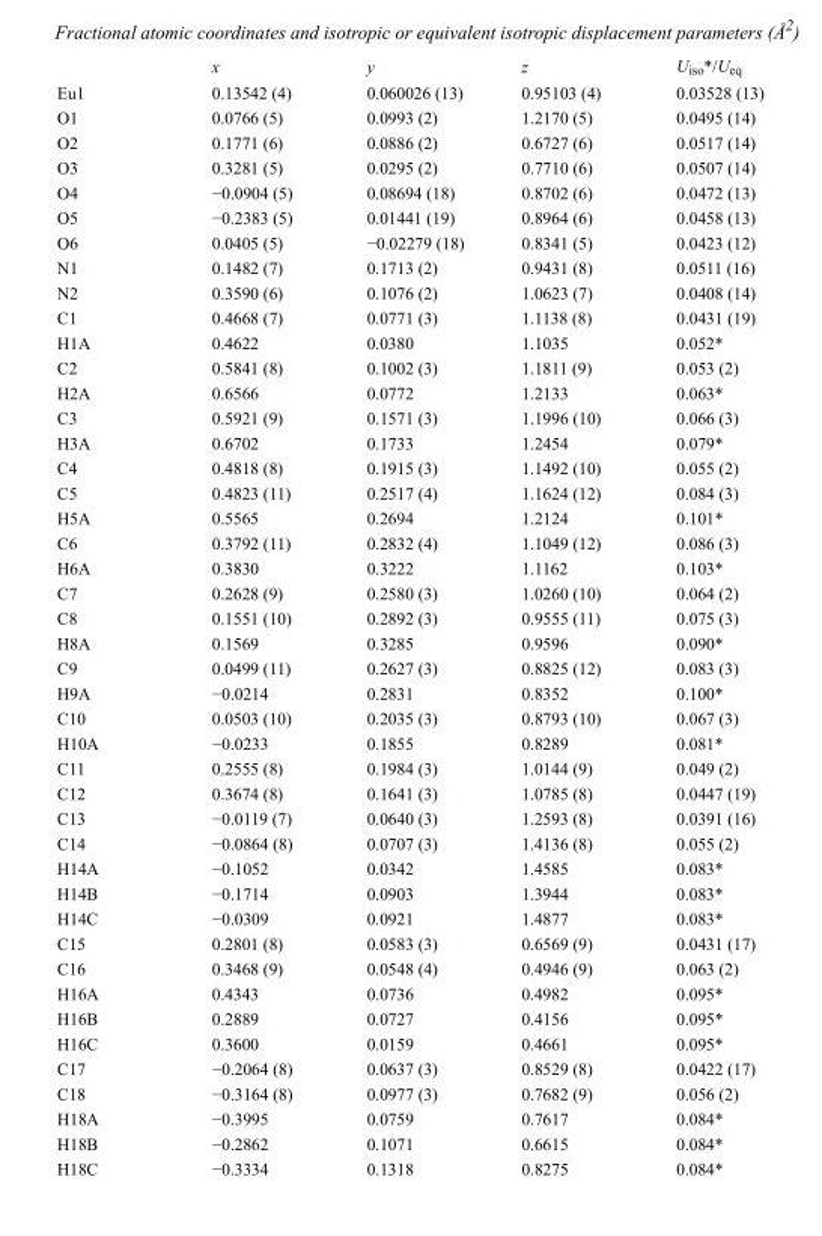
<table><thead><tr><td></td><td>x</td><td>y</td><td>z</td><td>U<sub>iso</sub>*/U<sub>eq</sub></td></tr></thead><tbody><tr><td>Eu1</td><td>0.13542 (4)</td><td>0.060026 (13)</td><td>0.95103 (4)</td><td>0.03528 (13)</td></tr><tr><td>O1</td><td>0.0766 (5)</td><td>0.0993 (2)</td><td>1.2170 (5)</td><td>0.0495 (14)</td></tr><tr><td>O2</td><td>0.1771 (6)</td><td>0.0886 (2)</td><td>0.6727 (6)</td><td>0.0517 (14)</td></tr><tr><td>O3</td><td>0.3281 (5)</td><td>0.0295 (2)</td><td>0.7710 (6)</td><td>0.0507 (14)</td></tr><tr><td>O4</td><td>−0.0904 (5)</td><td>0.08694 (18)</td><td>0.8702 (6)</td><td>0.0472 (13)</td></tr><tr><td>O5</td><td>−0.2383 (5)</td><td>0.01441 (19)</td><td>0.8964 (6)</td><td>0.0458 (13)</td></tr><tr><td>O6</td><td>0.0405 (5)</td><td>−0.02279 (18)</td><td>0.8341 (5)</td><td>0.0423 (12)</td></tr><tr><td>N1</td><td>0.1482 (7)</td><td>0.1713 (2)</td><td>0.9431 (8)</td><td>0.0511 (16)</td></tr><tr><td>N2</td><td>0.3590 (6)</td><td>0.1076 (2)</td><td>1.0623 (7)</td><td>0.0408 (14)</td></tr><tr><td>C1</td><td>0.4668 (7)</td><td>0.0771 (3)</td><td>1.1138 (8)</td><td>0.0431 (19)</td></tr><tr><td>H1A</td><td>0.4622</td><td>0.0380</td><td>1.1035</td><td>0.052*</td></tr><tr><td>C2</td><td>0.5841 (8)</td><td>0.1002 (3)</td><td>1.1811 (9)</td><td>0.053 (2)</td></tr><tr><td>H2A</td><td>0.6566</td><td>0.0772</td><td>1.2133</td><td>0.063*</td></tr><tr><td>C3</td><td>0.5921 (9)</td><td>0.1571 (3)</td><td>1.1996 (10)</td><td>0.066 (3)</td></tr><tr><td>H3A</td><td>0.6702</td><td>0.1733</td><td>1.2454</td><td>0.079*</td></tr><tr><td>C4</td><td>0.4818 (8)</td><td>0.1915 (3)</td><td>1.1492 (10)</td><td>0.055 (2)</td></tr><tr><td>C5</td><td>0.4823 (11)</td><td>0.2517 (4)</td><td>1.1624 (12)</td><td>0.084 (3)</td></tr><tr><td>H5A</td><td>0.5565</td><td>0.2694</td><td>1.2124</td><td>0.101*</td></tr><tr><td>C6</td><td>0.3792 (11)</td><td>0.2832 (4)</td><td>1.1049 (12)</td><td>0.086 (3)</td></tr><tr><td>H6A</td><td>0.3830</td><td>0.3222</td><td>1.1162</td><td>0.103*</td></tr><tr><td>C7</td><td>0.2628 (9)</td><td>0.2580 (3)</td><td>1.0260 (10)</td><td>0.064 (2)</td></tr><tr><td>C8</td><td>0.1551 (10)</td><td>0.2892 (3)</td><td>0.9555 (11)</td><td>0.075 (3)</td></tr><tr><td>H8A</td><td>0.1569</td><td>0.3285</td><td>0.9596</td><td>0.090*</td></tr><tr><td>C9</td><td>0.0499 (11)</td><td>0.2627 (3)</td><td>0.8825 (12)</td><td>0.083 (3)</td></tr><tr><td>H9A</td><td>−0.0214</td><td>0.2831</td><td>0.8352</td><td>0.100*</td></tr><tr><td>C10</td><td>0.0503 (10)</td><td>0.2035 (3)</td><td>0.8793 (10)</td><td>0.067 (3)</td></tr><tr><td>H10A</td><td>−0.0233</td><td>0.1855</td><td>0.8289</td><td>0.081*</td></tr><tr><td>C11</td><td>0.2555 (8)</td><td>0.1984 (3)</td><td>1.0144 (9)</td><td>0.049 (2)</td></tr><tr><td>C12</td><td>0.3674 (8)</td><td>0.1641 (3)</td><td>1.0785 (8)</td><td>0.0447 (19)</td></tr><tr><td>C13</td><td>−0.0119 (7)</td><td>0.0640 (3)</td><td>1.2593 (8)</td><td>0.0391 (16)</td></tr><tr><td>C14</td><td>−0.0864 (8)</td><td>0.0707 (3)</td><td>1.4136 (8)</td><td>0.055 (2)</td></tr><tr><td>H14A</td><td>−0.1052</td><td>0.0342</td><td>1.4585</td><td>0.083*</td></tr><tr><td>H14B</td><td>−0.1714</td><td>0.0903</td><td>1.3944</td><td>0.083*</td></tr><tr><td>H14C</td><td>−0.0309</td><td>0.0921</td><td>1.4877</td><td>0.083*</td></tr><tr><td>C15</td><td>0.2801 (8)</td><td>0.0583 (3)</td><td>0.6569 (9)</td><td>0.0431 (17)</td></tr><tr><td>C16</td><td>0.3468 (9)</td><td>0.0548 (4)</td><td>0.4946 (9)</td><td>0.063 (2)</td></tr><tr><td>H16A</td><td>0.4343</td><td>0.0736</td><td>0.4982</td><td>0.095*</td></tr><tr><td>H16B</td><td>0.2889</td><td>0.0727</td><td>0.4156</td><td>0.095*</td></tr><tr><td>H16C</td><td>0.3600</td><td>0.0159</td><td>0.4661</td><td>0.095*</td></tr><tr><td>C17</td><td>−0.2064 (8)</td><td>0.0637 (3)</td><td>0.8529 (8)</td><td>0.0422 (17)</td></tr><tr><td>C18</td><td>−0.3164 (8)</td><td>0.0977 (3)</td><td>0.7682 (9)</td><td>0.056 (2)</td></tr><tr><td>H18A</td><td>−0.3995</td><td>0.0759</td><td>0.7617</td><td>0.084*</td></tr><tr><td>H18B</td><td>−0.2862</td><td>0.1071</td><td>0.6615</td><td>0.084*</td></tr><tr><td>H18C</td><td>−0.3334</td><td>0.1318</td><td>0.8275</td><td>0.084*</td></tr></tbody></table>